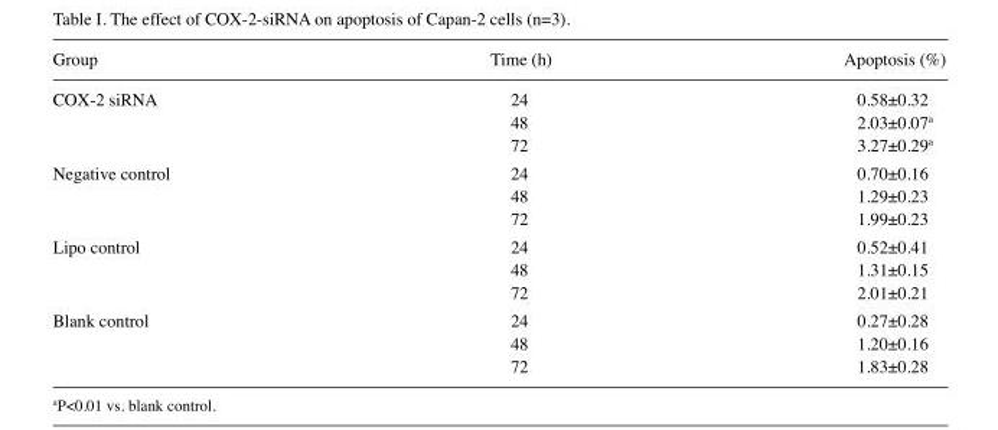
<table><thead><tr><td>Group</td><td>Time (h)</td><td>Apoptosis (%)</td></tr></thead><tbody><tr><td rowspan="3">COX-2 siRNA</td><td>24</td><td>0.58±0.32</td></tr><tr><td>48</td><td>2.03±0.07<sup>a</sup></td></tr><tr><td>72</td><td>3.27±0.29<sup>a</sup></td></tr><tr><td rowspan="3">Negative control</td><td>24</td><td>0.70±0.16</td></tr><tr><td>48</td><td>1.29±0.23</td></tr><tr><td>72</td><td>1.99±0.23</td></tr><tr><td rowspan="3">Lipo control</td><td>24</td><td>0.52±0.41</td></tr><tr><td>48</td><td>1.31±0.15</td></tr><tr><td>72</td><td>2.01±0.21</td></tr><tr><td rowspan="3">Blank control</td><td>24</td><td>0.27±0.28</td></tr><tr><td>48</td><td>1.20±0.16</td></tr><tr><td>72</td><td>1.83±0.28</td></tr></tbody></table>